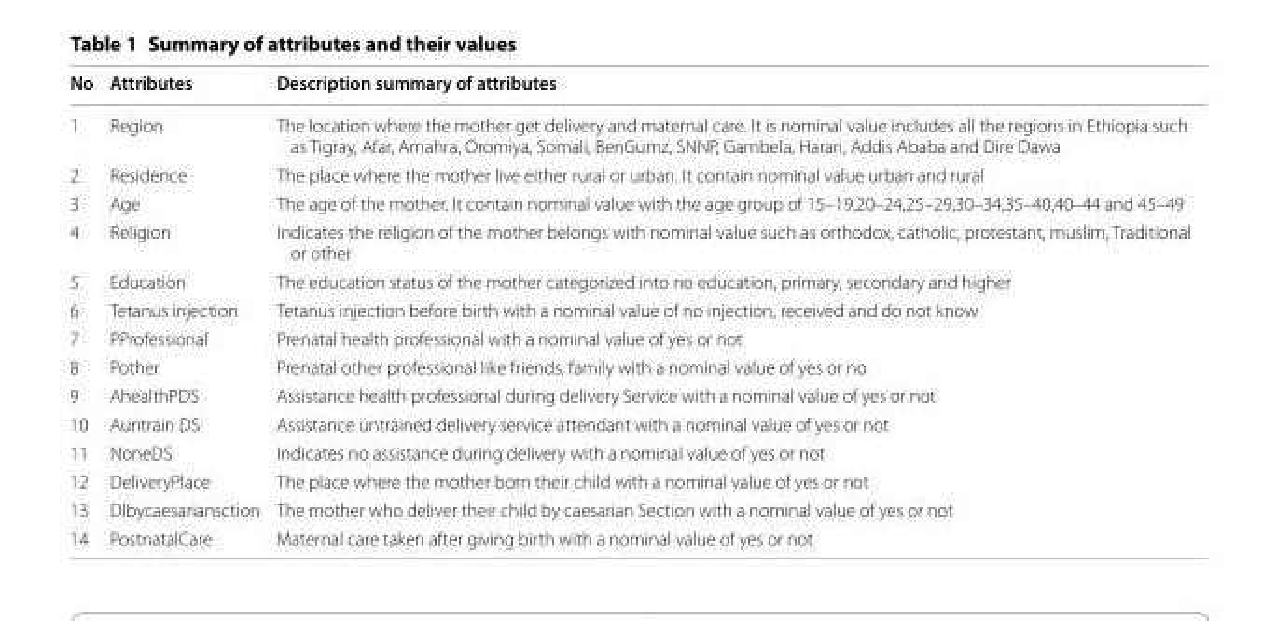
<table><thead><tr><td>No</td><td>Attributes</td><td>Description summary of attributes</td></tr></thead><tbody><tr><td>1</td><td>Region</td><td>The location where the mother get delivery and maternal care. It is nominal value includes all the regions in Ethiopia such as Tigray, Afar, Amahra, Oromiya, Somali, BenGumz, SNNP, Gambela, Harari, Addis Ababa and Dire Dawa</td></tr><tr><td>2</td><td>Residence</td><td>The place where the mother live either rural or urban. It contain nominal value urban and rural</td></tr><tr><td>3</td><td>Age</td><td>The age of the mother. It contain nominal value with the age group of 15–19,20–24,25–29,30–34,35–40,40–44 and 45–49</td></tr><tr><td>4</td><td>Religion</td><td>Indicates the religion of the mother belongs with nominal value such as orthodox, catholic, protestant, muslim, Traditional or other</td></tr><tr><td>5</td><td>Education</td><td>The education status of the mother categorized into no education, primary, secondary and higher</td></tr><tr><td>6</td><td>Tetanus injection</td><td>Tetanus injection before birth with a nominal value of no injection, received and do not know</td></tr><tr><td>7</td><td>PProfessional</td><td>Prenatal health professional with a nominal value of yes or not</td></tr><tr><td>8</td><td>Pother</td><td>Prenatal other professional like friends, family with a nominal value of yes or no</td></tr><tr><td>9</td><td>AhealthPDS</td><td>Assistance health professional during delivery Service with a nominal value of yes or not</td></tr><tr><td>10</td><td>Auntrain DS</td><td>Assistance untrained delivery service attendant with a nominal value of yes or not</td></tr><tr><td>11</td><td>NoneDS</td><td>Indicates no assistance during delivery with a nominal value of yes or not</td></tr><tr><td>12</td><td>DeliveryPlace</td><td>The place where the mother born their child with a nominal value of yes or not</td></tr><tr><td>13</td><td>Dlbycaesariansction</td><td>The mother who deliver their child by caesarian Section with a nominal value of yes or not</td></tr><tr><td>14</td><td>PostnatalCare</td><td>Maternal care taken after giving birth with a nominal value of yes or not</td></tr></tbody></table>